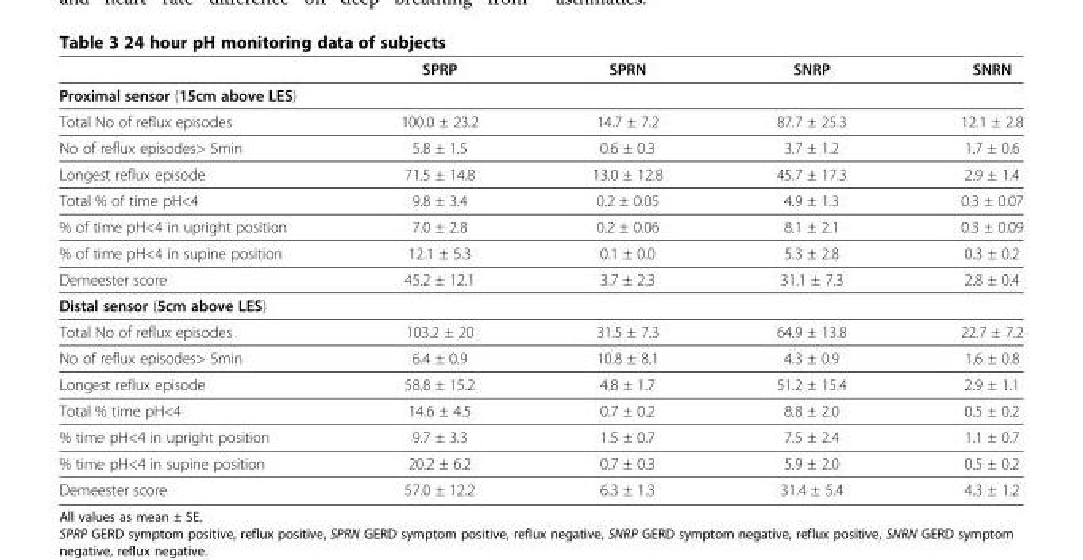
<table><thead><tr><td></td><td>SPRP</td><td>SPRN</td><td>SNRP</td><td>SNRN</td></tr><tr><td colspan="5">Proximal sensor (15cm above LES)</td></tr></thead><tbody><tr><td>Total No of reflux episodes</td><td>100.0 ± 23.2</td><td>14.7 ± 7.2</td><td>87.7 ± 25.3</td><td>12.1 ± 2.8</td></tr><tr><td>No of reflux episodes&gt; 5min</td><td>5.8 ± 1.5</td><td>0.6 ± 0.3</td><td>3.7 ± 1.2</td><td>1.7 ± 0.6</td></tr><tr><td>Longest reflux episode</td><td>71.5 ± 14.8</td><td>13.0 ± 12.8</td><td>45.7 ± 17.3</td><td>2.9 ± 1.4</td></tr><tr><td>Total % of time pH&lt;4</td><td>9.8 ± 3.4</td><td>0.2 ± 0.05</td><td>4.9 ± 1.3</td><td>0.3 ± 0.07</td></tr><tr><td>% of time pH&lt;4 in upright position</td><td>7.0 ± 2.8</td><td>0.2 ± 0.06</td><td>8.1 ± 2.1</td><td>0.3 ± 0.09</td></tr><tr><td>% of time pH&lt;4 in supine position</td><td>12.1 ± 5.3</td><td>0.1 ± 0.0</td><td>5.3 ± 2.8</td><td>0.3 ± 0.2</td></tr><tr><td>Demeester score</td><td>45.2 ± 12.1</td><td>3.7 ± 2.3</td><td>31.1 ± 7.3</td><td>2.8 ± 0.4</td></tr><tr><td colspan="5">Distal sensor (5cm above LES)</td></tr><tr><td>Total No of reflux episodes</td><td>103.2 ± 20</td><td>31.5 ± 7.3</td><td>64.9 ± 13.8</td><td>22.7 ± 7.2</td></tr><tr><td>No of reflux episodes&gt; 5min</td><td>6.4 ± 0.9</td><td>10.8 ± 8.1</td><td>4.3 ± 0.9</td><td>1.6 ± 0.8</td></tr><tr><td>Longest reflux episode</td><td>58.8 ± 15.2</td><td>4.8 ± 1.7</td><td>51.2 ± 15.4</td><td>2.9 ± 1.1</td></tr><tr><td>Total % time pH&lt;4</td><td>14.6 ± 4.5</td><td>0.7 ± 0.2</td><td>8.8 ± 2.0</td><td>0.5 ± 0.2</td></tr><tr><td>% time pH&lt;4 in upright position</td><td>9.7 ± 3.3</td><td>1.5 ± 0.7</td><td>7.5 ± 2.4</td><td>1.1 ± 0.7</td></tr><tr><td>% time pH&lt;4 in supine position</td><td>20.2 ± 6.2</td><td>0.7 ± 0.3</td><td>5.9 ± 2.0</td><td>0.5 ± 0.2</td></tr><tr><td>Demeester score</td><td>57.0 ± 12.2</td><td>6.3 ± 1.3</td><td>31.4 ± 5.4</td><td>4.3 ± 1.2</td></tr></tbody></table>